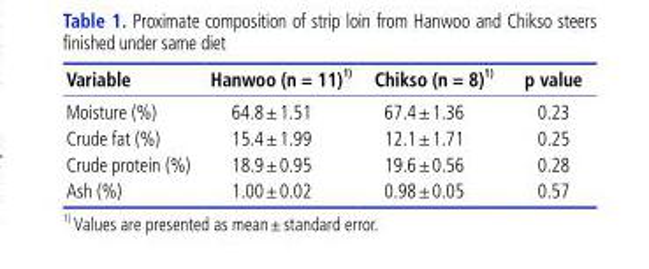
<table><thead><tr><td>Variable</td><td>Hanwoo (n = 11) 1)</td><td>Chikso (n = 8) 1)</td><td>p value</td></tr></thead><tbody><tr><td>Moisture (%)</td><td>64.8±1.51</td><td>67.4±1.36</td><td>0.23</td></tr><tr><td>Crude fat (%)</td><td>15.4±1.99</td><td>12.1±1.71</td><td>0.25</td></tr><tr><td>Crude protein (%)</td><td>18.9±0.95</td><td>19.6±0.56</td><td>0.28</td></tr><tr><td>Ash (%)</td><td>1.00±0.02</td><td>0.98±0.05</td><td>0.57</td></tr></tbody></table>